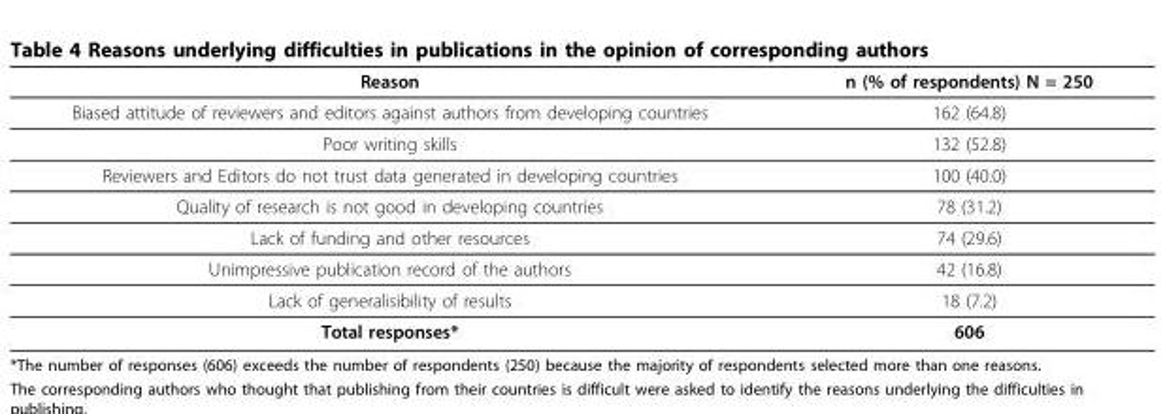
<table><thead><tr><td>Reason</td><td>n (% of respondents) N = 250</td></tr></thead><tbody><tr><td>Biased attitude of reviewers and editors against authors from developing countries</td><td>162 (64.8)</td></tr><tr><td>Poor writing skills</td><td>132 (52.8)</td></tr><tr><td>Reviewers and Editors do not trust data generated in developing countries</td><td>100 (40.0)</td></tr><tr><td>Quality of research is not good in developing countries</td><td>78 (31.2)</td></tr><tr><td>Lack of funding and other resources</td><td>74 (29.6)</td></tr><tr><td>Unimpressive publication record of the authors</td><td>42 (16.8)</td></tr><tr><td>Lack of generalisibility of results</td><td>18 (7.2)</td></tr><tr><td>Total responses*</td><td>606</td></tr></tbody></table>